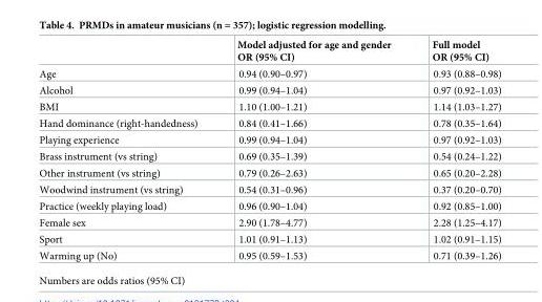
<table><thead><tr><td></td><td>Model adjusted for age and gender OR (95% CI)</td><td>Full model OR (95% CI)</td></tr></thead><tbody><tr><td>Age</td><td>0.94 (0.90–0.97)</td><td>0.93 (0.88–0.98)</td></tr><tr><td>Alcohol</td><td>0.99 (0.94–1.04)</td><td>0.97 (0.92–1.03)</td></tr><tr><td>BMI</td><td>1.10 (1.00–1.21)</td><td>1.14 (1.03–1.27)</td></tr><tr><td>Hand dominance (right-handedness)</td><td>0.84 (0.41–1.66)</td><td>0.78 (0.35–1.64)</td></tr><tr><td>Playing experience</td><td>0.99 (0.94–1.04)</td><td>0.97 (0.92–1.03)</td></tr><tr><td>Brass instrument (vs string)</td><td>0.69 (0.35–1.39)</td><td>0.54 (0.24–1.22)</td></tr><tr><td>Other instrument (vs string)</td><td>0.79 (0.26–2.63)</td><td>0.65 (0.20–2.28)</td></tr><tr><td>Woodwind instrument (vs string)</td><td>0.54 (0.31–0.96)</td><td>0.37 (0.20–0.70)</td></tr><tr><td>Practice (weekly playing load)</td><td>0.96 (0.90–1.04)</td><td>0.92 (0.85–1.00)</td></tr><tr><td>Female sex</td><td>2.90 (1.78–4.77)</td><td>2.28 (1.25–4.17)</td></tr><tr><td>Sport</td><td>1.01 (0.91–1.13)</td><td>1.02 (0.91–1.15)</td></tr><tr><td>Warming up (No)</td><td>0.95 (0.59–1.53)</td><td>0.71 (0.39–1.26)</td></tr></tbody></table>